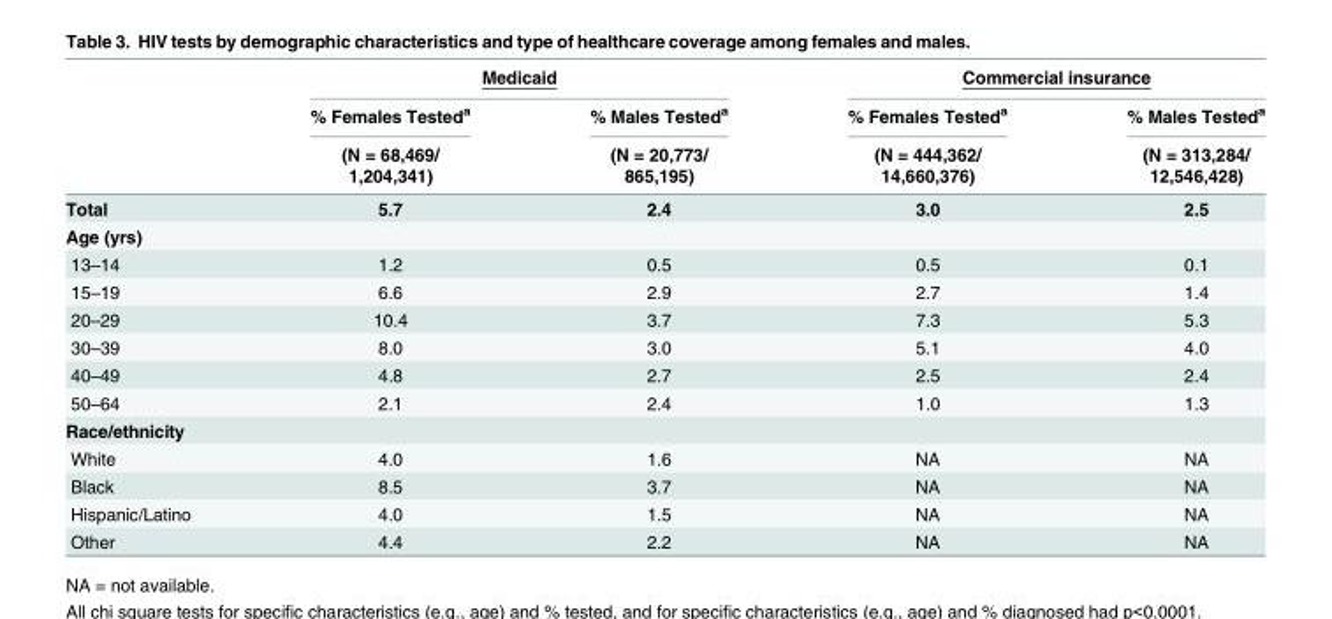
<table><thead><tr><td rowspan="4"></td><td colspan="2">Medicaid</td><td colspan="2">Commercial insurance</td></tr><tr><td rowspan="3">% Females Tested<sup>a</sup> (N = 68,469/ 1,204,341)</td><td rowspan="3">% Males Tested<sup>a</sup> (N = 20,773/ 865,195)</td><td rowspan="3">% Females Tested<sup>a</sup> (N = 444,362/ 14,660,376)</td><td rowspan="3">% Males Tested<sup>a</sup> (N = 313,284/ 12,546,428)</td></tr><tr></tr><tr></tr></thead><tbody><tr><td>Total</td><td>5.7</td><td>2.4</td><td>3.0</td><td>2.5</td></tr><tr><td colspan="5">Age (yrs)</td></tr><tr><td>13–14</td><td>1.2</td><td>0.5</td><td>0.5</td><td>0.1</td></tr><tr><td>15–19</td><td>6.6</td><td>2.9</td><td>2.7</td><td>1.4</td></tr><tr><td>20–29</td><td>10.4</td><td>3.7</td><td>7.3</td><td>5.3</td></tr><tr><td>30–39</td><td>8.0</td><td>3.0</td><td>5.1</td><td>4.0</td></tr><tr><td>40–49</td><td>4.8</td><td>2.7</td><td>2.5</td><td>2.4</td></tr><tr><td>50–64</td><td>2.1</td><td>2.4</td><td>1.0</td><td>1.3</td></tr><tr><td colspan="5">Race/ethnicity</td></tr><tr><td>White</td><td>4.0</td><td>1.6</td><td>NA</td><td>NA</td></tr><tr><td>Black</td><td>8.5</td><td>3.7</td><td>NA</td><td>NA</td></tr><tr><td>Hispanic/Latino</td><td>4.0</td><td>1.5</td><td>NA</td><td>NA</td></tr><tr><td>Other</td><td>4.4</td><td>2.2</td><td>NA</td><td>NA</td></tr></tbody></table>